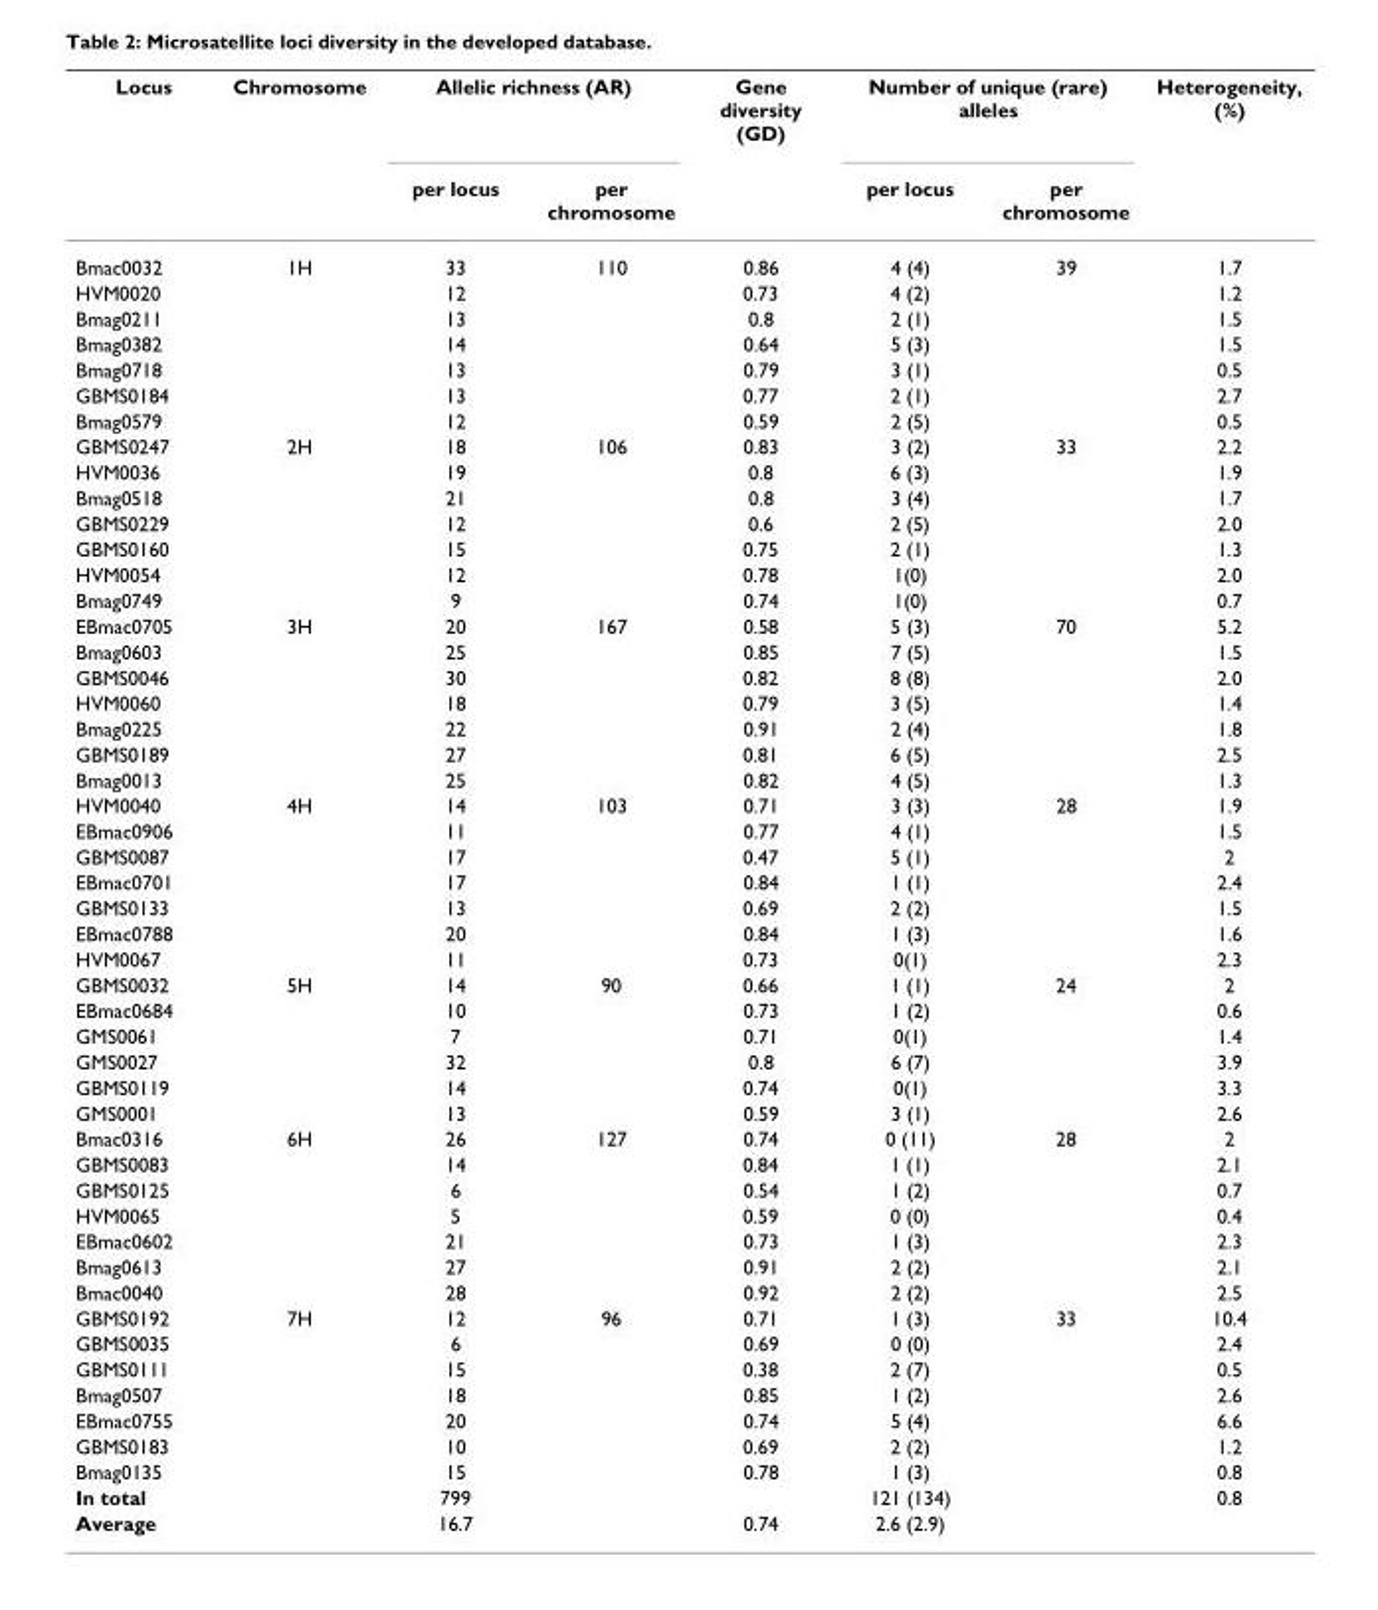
<table><thead><tr><td rowspan="2">Locus</td><td rowspan="2">Chromosome</td><td colspan="2">Allelic richness (AR)</td><td rowspan="2">Gene diversity (GD)</td><td colspan="2">Number of unique (rare) alleles</td><td rowspan="2">Heterogeneity, (%)</td></tr><tr><td>per locus</td><td>per chromosome</td><td>per locus</td><td>per chromosome</td></tr></thead><tbody><tr><td>Bmac0032</td><td>1H</td><td>33</td><td>110</td><td>0.86</td><td>4 (4)</td><td>39</td><td>1.7</td></tr><tr><td>HVM0020</td><td></td><td>12</td><td></td><td>0.73</td><td>4 (2)</td><td></td><td>1.2</td></tr><tr><td>Bmag0211</td><td></td><td>13</td><td></td><td>0.8</td><td>2 (1)</td><td></td><td>1.5</td></tr><tr><td>Bmag0382</td><td></td><td>14</td><td></td><td>0.64</td><td>5 (3)</td><td></td><td>1.5</td></tr><tr><td>Bmag0718</td><td></td><td>13</td><td></td><td>0.79</td><td>3 (1)</td><td></td><td>0.5</td></tr><tr><td>GBMS0184</td><td></td><td>13</td><td></td><td>0.77</td><td>2 (1)</td><td></td><td>2.7</td></tr><tr><td>Bmag0579</td><td></td><td>12</td><td></td><td>0.59</td><td>2 (5)</td><td></td><td>0.5</td></tr><tr><td>GBMS0247</td><td>2H</td><td>18</td><td>106</td><td>0.83</td><td>3 (2)</td><td>33</td><td>2.2</td></tr><tr><td>HVM0036</td><td></td><td>19</td><td></td><td>0.8</td><td>6 (3)</td><td></td><td>1.9</td></tr><tr><td>Bmag0518</td><td></td><td>21</td><td></td><td>0.8</td><td>3 (4)</td><td></td><td>1.7</td></tr><tr><td>GBMS0229</td><td></td><td>12</td><td></td><td>0.6</td><td>2 (5)</td><td></td><td>2.0</td></tr><tr><td>GBMS0160</td><td></td><td>15</td><td></td><td>0.75</td><td>2 (1)</td><td></td><td>1.3</td></tr><tr><td>HVM0054</td><td></td><td>12</td><td></td><td>0.78</td><td>1(0)</td><td></td><td>2.0</td></tr><tr><td>Bmag0749</td><td></td><td>9</td><td></td><td>0.74</td><td>1(0)</td><td></td><td>0.7</td></tr><tr><td>EBmac0705</td><td>3H</td><td>20</td><td>167</td><td>0.58</td><td>5 (3)</td><td>70</td><td>5.2</td></tr><tr><td>Bmag0603</td><td></td><td>25</td><td></td><td>0.85</td><td>7 (5)</td><td></td><td>1.5</td></tr><tr><td>GBMS0046</td><td></td><td>30</td><td></td><td>0.82</td><td>8 (8)</td><td></td><td>2.0</td></tr><tr><td>HVM0060</td><td></td><td>18</td><td></td><td>0.79</td><td>3 (5)</td><td></td><td>1.4</td></tr><tr><td>Bmag0225</td><td></td><td>22</td><td></td><td>0.91</td><td>2 (4)</td><td></td><td>1.8</td></tr><tr><td>GBMS0189</td><td></td><td>27</td><td></td><td>0.81</td><td>6 (5)</td><td></td><td>2.5</td></tr><tr><td>Bmag0013</td><td></td><td>25</td><td></td><td>0.82</td><td>4 (5)</td><td></td><td>1.3</td></tr><tr><td>HVM0040</td><td>4H</td><td>14</td><td>103</td><td>0.71</td><td>3 (3)</td><td>28</td><td>1.9</td></tr><tr><td>EBmac0906</td><td></td><td>11</td><td></td><td>0.77</td><td>4 (1)</td><td></td><td>1.5</td></tr><tr><td>GBMS0087</td><td></td><td>17</td><td></td><td>0.47</td><td>5 (1)</td><td></td><td>2</td></tr><tr><td>EBmac0701</td><td></td><td>17</td><td></td><td>0.84</td><td>1 (1)</td><td></td><td>2.4</td></tr><tr><td>GBMS0133</td><td></td><td>13</td><td></td><td>0.69</td><td>2 (2)</td><td></td><td>1.5</td></tr><tr><td>EBmac0788</td><td></td><td>20</td><td></td><td>0.84</td><td>1 (3)</td><td></td><td>1.6</td></tr><tr><td>HVM0067</td><td></td><td>11</td><td></td><td>0.73</td><td>0(1)</td><td></td><td>2.3</td></tr><tr><td>GBMS0032</td><td>5H</td><td>14</td><td>90</td><td>0.66</td><td>1 (1)</td><td>24</td><td>2</td></tr><tr><td>EBmac0684</td><td></td><td>10</td><td></td><td>0.73</td><td>1 (2)</td><td></td><td>0.6</td></tr><tr><td>GMS0061</td><td></td><td>7</td><td></td><td>0.71</td><td>0(1)</td><td></td><td>1.4</td></tr><tr><td>GMS0027</td><td></td><td>32</td><td></td><td>0.8</td><td>6 (7)</td><td></td><td>3.9</td></tr><tr><td>GBMS0119</td><td></td><td>14</td><td></td><td>0.74</td><td>0(1)</td><td></td><td>3.3</td></tr><tr><td>GMS0001</td><td></td><td>13</td><td></td><td>0.59</td><td>3 (1)</td><td></td><td>2.6</td></tr><tr><td>Bmac0316</td><td>6H</td><td>26</td><td>127</td><td>0.74</td><td>0 (11)</td><td>28</td><td>2</td></tr><tr><td>GBMS0083</td><td></td><td>14</td><td></td><td>0.84</td><td>1 (1)</td><td></td><td>2.1</td></tr><tr><td>GBMS0125</td><td></td><td>6</td><td></td><td>0.54</td><td>1 (2)</td><td></td><td>0.7</td></tr><tr><td>HVM0065</td><td></td><td>5</td><td></td><td>0.59</td><td>0 (0)</td><td></td><td>0.4</td></tr><tr><td>EBmac0602</td><td></td><td>21</td><td></td><td>0.73</td><td>1 (3)</td><td></td><td>2.3</td></tr><tr><td>Bmag0613</td><td></td><td>27</td><td></td><td>0.91</td><td>2 (2)</td><td></td><td>2.1</td></tr><tr><td>Bmac0040</td><td></td><td>28</td><td></td><td>0.92</td><td>2 (2)</td><td></td><td>2.5</td></tr><tr><td>GBMS0192</td><td>7H</td><td>12</td><td>96</td><td>0.71</td><td>1 (3)</td><td>33</td><td>10.4</td></tr><tr><td>GBMS0035</td><td></td><td>6</td><td></td><td>0.69</td><td>0 (0)</td><td></td><td>2.4</td></tr><tr><td>GBMS0111</td><td></td><td>15</td><td></td><td>0.38</td><td>2 (7)</td><td></td><td>0.5</td></tr><tr><td>Bmag0507</td><td></td><td>18</td><td></td><td>0.85</td><td>1 (2)</td><td></td><td>2.6</td></tr><tr><td>EBmac0755</td><td></td><td>20</td><td></td><td>0.74</td><td>5 (4)</td><td></td><td>6.6</td></tr><tr><td>GBMS0183</td><td></td><td>10</td><td></td><td>0.69</td><td>2 (2)</td><td></td><td>1.2</td></tr><tr><td>Bmag0135</td><td></td><td>15</td><td></td><td>0.78</td><td>1 (3)</td><td></td><td>0.8</td></tr><tr><td>In total</td><td></td><td>799</td><td></td><td></td><td>121 (134)</td><td></td><td>0.8</td></tr><tr><td>Average</td><td></td><td>16.7</td><td></td><td>0.74</td><td>2.6 (2.9)</td><td></td><td></td></tr></tbody></table>